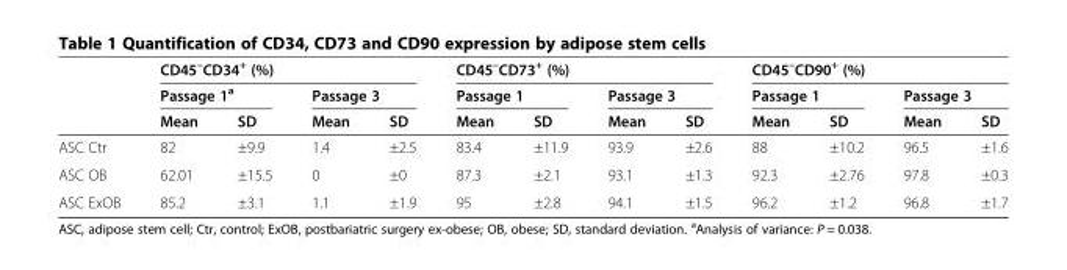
<table><thead><tr><td rowspan="3"></td><td colspan="4">CD45<sup>–</sup>CD34<sup>+</sup> (%)</td><td colspan="4">CD45<sup>–</sup>CD73<sup>+</sup> (%)</td><td colspan="4">CD45<sup>–</sup>CD90<sup>+</sup> (%)</td></tr><tr><td colspan="2">Passage 1<sup>a</sup></td><td colspan="2">Passage 3</td><td colspan="2">Passage 1</td><td colspan="2">Passage 3</td><td colspan="2">Passage 1</td><td colspan="2">Passage 3</td></tr><tr><td>Mean</td><td>SD</td><td>Mean</td><td>SD</td><td>Mean</td><td>SD</td><td>Mean</td><td>SD</td><td>Mean</td><td>SD</td><td>Mean</td><td>SD</td></tr></thead><tbody><tr><td>ASC Ctr</td><td>82</td><td>±9.9</td><td>1.4</td><td>±2.5</td><td>83.4</td><td>±11.9</td><td>93.9</td><td>±2.6</td><td>88</td><td>±10.2</td><td>96.5</td><td>±1.6</td></tr><tr><td>ASC OB</td><td>62.01</td><td>±15.5</td><td>0</td><td>±0</td><td>87.3</td><td>±2.1</td><td>93.1</td><td>±1.3</td><td>92.3</td><td>±2.76</td><td>97.8</td><td>±0.3</td></tr><tr><td>ASC ExOB</td><td>85.2</td><td>±3.1</td><td>1.1</td><td>±1.9</td><td>95</td><td>±2.8</td><td>94.1</td><td>±1.5</td><td>96.2</td><td>±1.2</td><td>96.8</td><td>±1.7</td></tr></tbody></table>